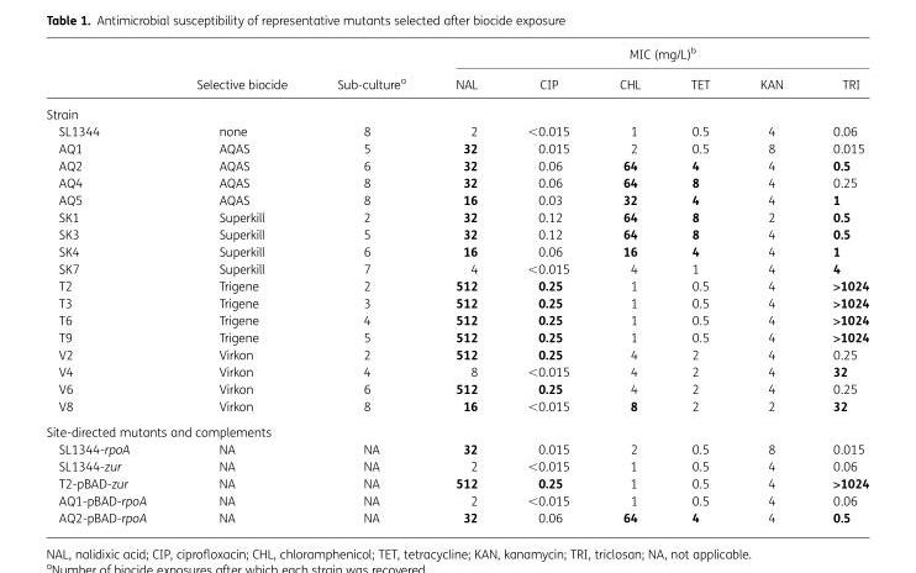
<table><thead><tr><td rowspan="2"></td><td rowspan="2">Selective biocide</td><td rowspan="2">Sub-culture<sup>a</sup></td><td colspan="6">MIC (mg/L)<sup>b</sup></td></tr><tr><td>NAL</td><td>CIP</td><td>CHL</td><td>TET</td><td>KAN</td><td>TRI</td></tr></thead><tbody><tr><td colspan="9">Strain</td></tr><tr><td>SL1344</td><td>none</td><td>8</td><td>2</td><td>&lt;0.015</td><td>1</td><td>0.5</td><td>4</td><td>0.06</td></tr><tr><td>AQ1</td><td>AQAS</td><td>5</td><td>32</td><td>0.015</td><td>2</td><td>0.5</td><td>8</td><td>0.015</td></tr><tr><td>AQ2</td><td>AQAS</td><td>6</td><td>32</td><td>0.06</td><td>64</td><td>4</td><td>4</td><td>0.5</td></tr><tr><td>AQ4</td><td>AQAS</td><td>8</td><td>32</td><td>0.06</td><td>64</td><td>8</td><td>4</td><td>0.25</td></tr><tr><td>AQ5</td><td>AQAS</td><td>8</td><td>16</td><td>0.03</td><td>32</td><td>4</td><td>4</td><td>1</td></tr><tr><td>SK1</td><td>Superkill</td><td>2</td><td>32</td><td>0.12</td><td>64</td><td>8</td><td>2</td><td>0.5</td></tr><tr><td>SK3</td><td>Superkill</td><td>5</td><td>32</td><td>0.12</td><td>64</td><td>8</td><td>4</td><td>0.5</td></tr><tr><td>SK4</td><td>Superkill</td><td>6</td><td>16</td><td>0.06</td><td>16</td><td>4</td><td>4</td><td>1</td></tr><tr><td>SK7</td><td>Superkill</td><td>7</td><td>4</td><td>&lt;0.015</td><td>4</td><td>1</td><td>4</td><td>4</td></tr><tr><td>T2</td><td>Trigene</td><td>2</td><td>512</td><td>0.25</td><td>1</td><td>0.5</td><td>4</td><td>&gt;1024</td></tr><tr><td>T3</td><td>Trigene</td><td>3</td><td>512</td><td>0.25</td><td>1</td><td>0.5</td><td>4</td><td>&gt;1024</td></tr><tr><td>T6</td><td>Trigene</td><td>4</td><td>512</td><td>0.25</td><td>1</td><td>0.5</td><td>4</td><td>&gt;1024</td></tr><tr><td>T9</td><td>Trigene</td><td>5</td><td>512</td><td>0.25</td><td>1</td><td>0.5</td><td>4</td><td>&gt;1024</td></tr><tr><td>V2</td><td>Virkon</td><td>2</td><td>512</td><td>0.25</td><td>4</td><td>2</td><td>4</td><td>0.25</td></tr><tr><td>V4</td><td>Virkon</td><td>4</td><td>8</td><td>&lt;0.015</td><td>4</td><td>2</td><td>4</td><td>32</td></tr><tr><td>V6</td><td>Virkon</td><td>6</td><td>512</td><td>0.25</td><td>4</td><td>2</td><td>4</td><td>0.25</td></tr><tr><td>V8</td><td>Virkon</td><td>8</td><td>16</td><td>&lt;0.015</td><td>8</td><td>2</td><td>2</td><td>32</td></tr><tr><td colspan="9">Site-directed mutants and complements</td></tr><tr><td>SL1344-rpoA</td><td>NA</td><td>NA</td><td>32</td><td>0.015</td><td>2</td><td>0.5</td><td>8</td><td>0.015</td></tr><tr><td>SL1344-zur</td><td>NA</td><td>NA</td><td>2</td><td>&lt;0.015</td><td>1</td><td>0.5</td><td>4</td><td>0.06</td></tr><tr><td>T2-pBAD-zur</td><td>NA</td><td>NA</td><td>512</td><td>0.25</td><td>1</td><td>0.5</td><td>4</td><td>&gt;1024</td></tr><tr><td>AQ1-pBAD-rpoA</td><td>NA</td><td>NA</td><td>2</td><td>&lt;0.015</td><td>1</td><td>0.5</td><td>4</td><td>0.06</td></tr><tr><td>AQ2-pBAD-rpoA</td><td>NA</td><td>NA</td><td>32</td><td>0.06</td><td>64</td><td>4</td><td>4</td><td>0.5</td></tr></tbody></table>